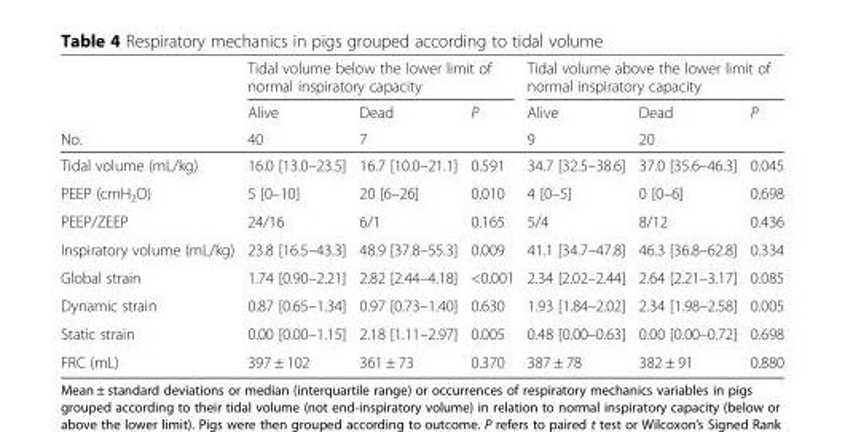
<table><thead><tr><td rowspan="3">No.</td><td colspan="3">Tidal volume below the lower limit of normal inspiratory capacity</td><td colspan="3">Tidal volume above the lower limit of normal inspiratory capacity</td></tr><tr><td rowspan="2">Alive 40</td><td rowspan="2">Dead 7</td><td rowspan="2">P</td><td rowspan="2">Alive 9</td><td rowspan="2">Dead 20</td><td rowspan="2">P</td></tr><tr></tr></thead><tbody><tr><td>Tidal volume (mL/kg)</td><td>16.0 [13.0–23.5]</td><td>16.7 [10.0–21.1]</td><td>0.591</td><td>34.7 [32.5–38.6]</td><td>37.0 [35.6–46.3]</td><td>0.045</td></tr><tr><td>PEEP (cmH<sub>2</sub>O)</td><td>5 [0–10]</td><td>20 [6–26]</td><td>0.010</td><td>4 [0–5]</td><td>0 [0–6]</td><td>0.698</td></tr><tr><td>PEEP/ZEEP</td><td>24/16</td><td>6/1</td><td>0.165</td><td>5/4</td><td>8/12</td><td>0.436</td></tr><tr><td>Inspiratory volume (mL/kg)</td><td>23.8 [16.5–43.3]</td><td>48.9 [37.8–55.3]</td><td>0.009</td><td>41.1 [34.7–47.8]</td><td>46.3 [36.8–62.8]</td><td>0.334</td></tr><tr><td>Global strain</td><td>1.74 [0.90–2.21]</td><td>2.82 [2.44–4.18]</td><td>&lt;0.001</td><td>2.34 [2.02–2.44]</td><td>2.64 [2.21–3.17]</td><td>0.085</td></tr><tr><td>Dynamic strain</td><td>0.87 [0.65–1.34]</td><td>0.97 [0.73–1.40]</td><td>0.630</td><td>1.93 [1.84–2.02]</td><td>2.34 [1.98–2.58]</td><td>0.005</td></tr><tr><td>Static strain</td><td>0.00 [0.00–1.15]</td><td>2.18 [1.11–2.97]</td><td>0.005</td><td>0.48 [0.00–0.63]</td><td>0.00 [0.00–0.72]</td><td>0.698</td></tr><tr><td>FRC (mL)</td><td>397 ± 102</td><td>361 ± 73</td><td>0.370</td><td>387 ± 78</td><td>382 ± 91</td><td>0.880</td></tr></tbody></table>